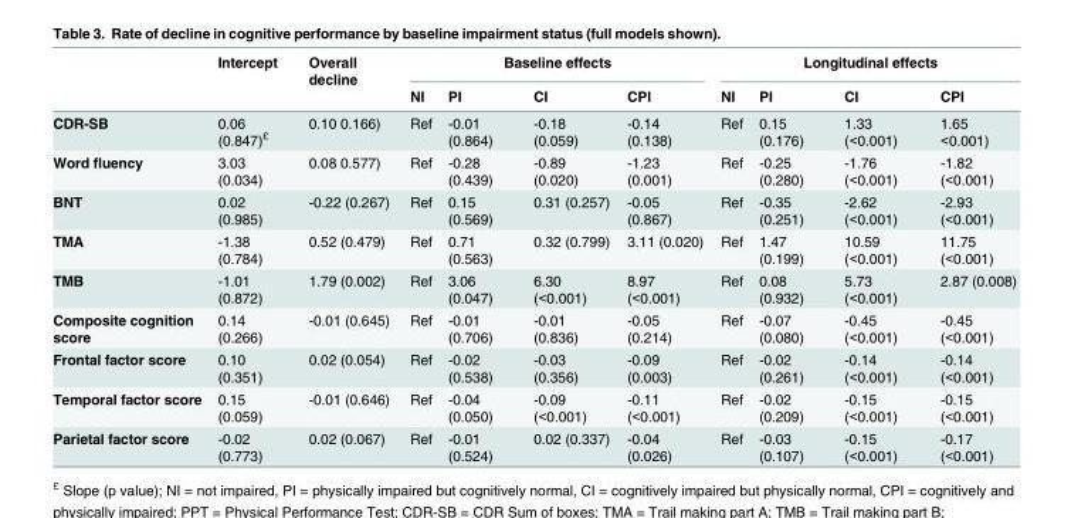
<table><thead><tr><td rowspan="2"></td><td rowspan="2">Intercept</td><td rowspan="2">Overall decline</td><td colspan="4">Baseline effects</td><td colspan="4">Longitudinal effects</td></tr><tr><td>NI</td><td>PI</td><td>CI</td><td>CPI</td><td>NI</td><td>PI</td><td>CI</td><td>CPI</td></tr></thead><tbody><tr><td>CDR-SB</td><td>0.06 (0.847)<sup>£</sup></td><td>0.10 0.166)</td><td>Ref</td><td>-0.01 (0.864)</td><td>-0.18 (0.059)</td><td>-0.14 (0.138)</td><td>Ref</td><td>0.15 (0.176)</td><td>1.33 (&lt;0.001)</td><td>1.65 &lt;0.001)</td></tr><tr><td>Word fluency</td><td>3.03 (0.034)</td><td>0.08 0.577)</td><td>Ref</td><td>-0.28 (0.439)</td><td>-0.89 (0.020)</td><td>-1.23 (0.001)</td><td>Ref</td><td>-0.25 (0.280)</td><td>-1.76 (&lt;0.001)</td><td>-1.82 (&lt;0.001)</td></tr><tr><td>BNT</td><td>0.02 (0.985)</td><td>-0.22 (0.267)</td><td>Ref</td><td>0.15 (0.569)</td><td>0.31 (0.257)</td><td>-0.05 (0.867)</td><td>Ref</td><td>-0.35 (0.251)</td><td>-2.62 (&lt;0.001)</td><td>-2.93 (&lt;0.001)</td></tr><tr><td>TMA</td><td>-1.38 (0.784)</td><td>0.52 (0.479)</td><td>Ref</td><td>0.71 (0.563)</td><td>0.32 (0.799)</td><td>3.11 (0.020)</td><td>Ref</td><td>1.47 (0.199)</td><td>10.59 (&lt;0.001)</td><td>11.75 (&lt;0.001)</td></tr><tr><td>TMB</td><td>-1.01 (0.872)</td><td>1.79 (0.002)</td><td>Ref</td><td>3.06 (0.047)</td><td>6.30 (&lt;0.001)</td><td>8.97 (&lt;0.001)</td><td>Ref</td><td>0.08 (0.932)</td><td>5.73 (&lt;0.001)</td><td>2.87 (0.008)</td></tr><tr><td>Composite cognition score</td><td>0.14 (0.266)</td><td>-0.01 (0.645)</td><td>Ref</td><td>-0.01 (0.706)</td><td>-0.01 (0.836)</td><td>-0.05 (0.214)</td><td>Ref</td><td>-0.07 (0.080)</td><td>-0.45 (&lt;0.001)</td><td>-0.45 (&lt;0.001)</td></tr><tr><td>Frontal factor score</td><td>0.10 (0.351)</td><td>0.02 (0.054)</td><td>Ref</td><td>-0.02 (0.538)</td><td>-0.03 (0.356)</td><td>-0.09 (0.003)</td><td>Ref</td><td>-0.02 (0.261)</td><td>-0.14 (&lt;0.001)</td><td>-0.14 (&lt;0.001)</td></tr><tr><td>Temporal factor score</td><td>0.15 (0.059)</td><td>-0.01 (0.646)</td><td>Ref</td><td>-0.04 (0.050)</td><td>-0.09 (&lt;0.001)</td><td>-0.11 (&lt;0.001)</td><td>Ref</td><td>-0.02 (0.209)</td><td>-0.15 (&lt;0.001)</td><td>-0.15 (&lt;0.001)</td></tr><tr><td>Parietal factor score</td><td>-0.02 (0.773)</td><td>0.02 (0.067)</td><td>Ref</td><td>-0.01 (0.524)</td><td>0.02 (0.337)</td><td>-0.04 (0.026)</td><td>Ref</td><td>-0.03 (0.107)</td><td>-0.15 (&lt;0.001)</td><td>-0.17 (&lt;0.001)</td></tr></tbody></table>